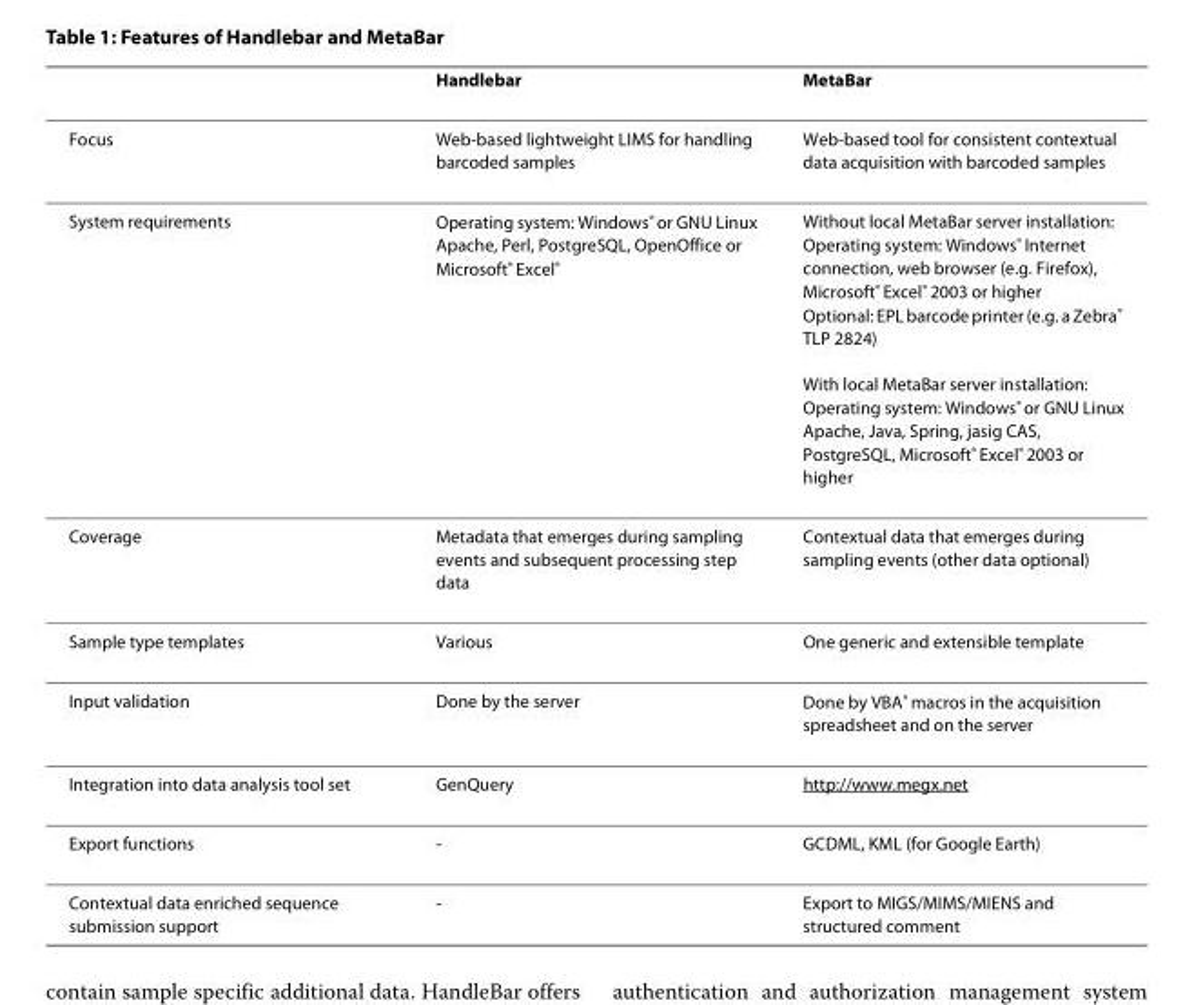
<table><thead><tr><td></td><td>Handlebar</td><td>MetaBar</td></tr></thead><tbody><tr><td>Focus</td><td>Web-based lightweight LIMS for handling barcoded samples</td><td>Web-based tool for consistent contextual data acquisition with barcoded samples</td></tr><tr><td>System requirements</td><td>Operating system: Windows<sup>®</sup> or GNU Linux Apache, Perl, PostgreSQL, OpenOffice or Microsoft<sup>®</sup> Excel<sup>®</sup></td><td>Without local MetaBar server installation: Operating system: Windows<sup>®</sup> Internet connection, web browser (e.g. Firefox), Microsoft<sup>®</sup> Excel<sup>®</sup> 2003 or higher Optional: EPL barcode printer (e.g. a Zebra<sup>®</sup> TLP 2824) With local MetaBar server installation: Operating system: Windows<sup>®</sup> or GNU Linux Apache, Java, Spring, jasig CAS, PostgreSQL, Microsoft<sup>®</sup> Excel<sup>®</sup> 2003 or higher</td></tr><tr><td>Coverage</td><td>Metadata that emerges during sampling events and subsequent processing step data</td><td>Contextual data that emerges during sampling events (other data optional)</td></tr><tr><td>Sample type templates</td><td>Various</td><td>One generic and extensible template</td></tr><tr><td>Input validation</td><td>Done by the server</td><td>Done by VBA<sup>®</sup> macros in the acquisition spreadsheet and on the server</td></tr><tr><td>Integration into data analysis tool set</td><td>GenQuery</td><td>http://www.megx.net</td></tr><tr><td>Export functions</td><td>-</td><td>GCDML, KML (for Google Earth)</td></tr><tr><td>Contextual data enriched sequence submission support</td><td>-</td><td>Export to MIGS/MIMS/MIENS and structured comment</td></tr></tbody></table>